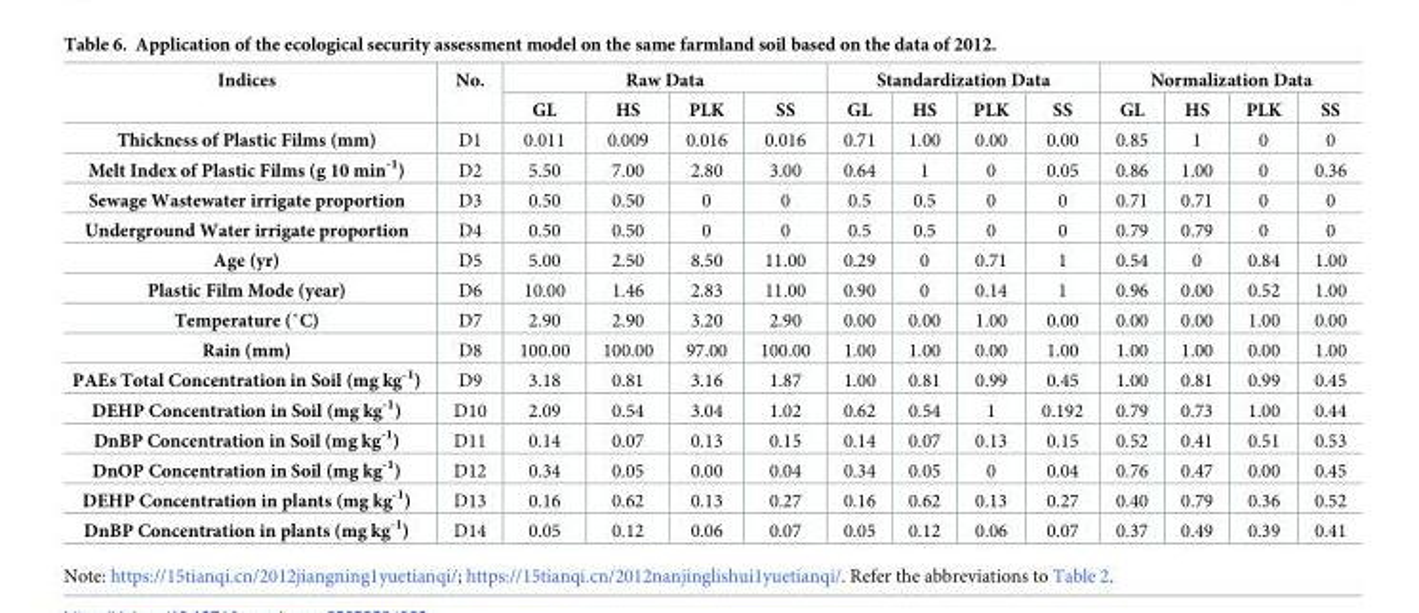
<table><thead><tr><td rowspan="2">Indices</td><td rowspan="2">No.</td><td colspan="4">Raw Data</td><td colspan="4">Standardization Data</td><td colspan="4">Normalization Data</td></tr><tr><td>GL</td><td>HS</td><td>PLK</td><td>SS</td><td>GL</td><td>HS</td><td>PLK</td><td>SS</td><td>GL</td><td>HS</td><td>PLK</td><td>SS</td></tr></thead><tbody><tr><td>Thickness of Plastic Films (mm)</td><td>D1</td><td>0.011</td><td>0.009</td><td>0.016</td><td>0.016</td><td>0.71</td><td>1.00</td><td>0.00</td><td>0.00</td><td>0.85</td><td>1</td><td>0</td><td>0</td></tr><tr><td>Melt Index of Plastic Films (g 10 min<sup>-1</sup>)</td><td>D2</td><td>5.50</td><td>7.00</td><td>2.80</td><td>3.00</td><td>0.64</td><td>1</td><td>0</td><td>0.05</td><td>0.86</td><td>1.00</td><td>0</td><td>0.36</td></tr><tr><td>Sewage Wastewater irrigate proportion</td><td>D3</td><td>0.50</td><td>0.50</td><td>0</td><td>0</td><td>0.5</td><td>0.5</td><td>0</td><td>0</td><td>0.71</td><td>0.71</td><td>0</td><td>0</td></tr><tr><td>Underground Water irrigate proportion</td><td>D4</td><td>0.50</td><td>0.50</td><td>0</td><td>0</td><td>0.5</td><td>0.5</td><td>0</td><td>0</td><td>0.79</td><td>0.79</td><td>0</td><td>0</td></tr><tr><td>Age (yr)</td><td>D5</td><td>5.00</td><td>2.50</td><td>8.50</td><td>11.00</td><td>0.29</td><td>0</td><td>0.71</td><td>1</td><td>0.54</td><td>0</td><td>0.84</td><td>1.00</td></tr><tr><td>Plastic Film Mode (year)</td><td>D6</td><td>10.00</td><td>1.46</td><td>2.83</td><td>11.00</td><td>0.90</td><td>0</td><td>0.14</td><td>1</td><td>0.96</td><td>0.00</td><td>0.52</td><td>1.00</td></tr><tr><td>Temperature (˚C)</td><td>D7</td><td>2.90</td><td>2.90</td><td>3.20</td><td>2.90</td><td>0.00</td><td>0.00</td><td>1.00</td><td>0.00</td><td>0.00</td><td>0.00</td><td>1.00</td><td>0.00</td></tr><tr><td>Rain (mm)</td><td>D8</td><td>100.00</td><td>100.00</td><td>97.00</td><td>100.00</td><td>1.00</td><td>1.00</td><td>0.00</td><td>1.00</td><td>1.00</td><td>1.00</td><td>0.00</td><td>1.00</td></tr><tr><td>PAEs Total Concentration in Soil (mg kg<sup>-1</sup>)</td><td>D9</td><td>3.18</td><td>0.81</td><td>3.16</td><td>1.87</td><td>1.00</td><td>0.81</td><td>0.99</td><td>0.45</td><td>1.00</td><td>0.81</td><td>0.99</td><td>0.45</td></tr><tr><td>DEHP Concentration in Soil (mg kg<sup>-1</sup>)</td><td>D10</td><td>2.09</td><td>0.54</td><td>3.04</td><td>1.02</td><td>0.62</td><td>0.54</td><td>1</td><td>0.192</td><td>0.79</td><td>0.73</td><td>1.00</td><td>0.44</td></tr><tr><td>DnBP Concentration in Soil (mg kg<sup>-1</sup>)</td><td>D11</td><td>0.14</td><td>0.07</td><td>0.13</td><td>0.15</td><td>0.14</td><td>0.07</td><td>0.13</td><td>0.15</td><td>0.52</td><td>0.41</td><td>0.51</td><td>0.53</td></tr><tr><td>DnOP Concentration in Soil (mg kg<sup>-1</sup>)</td><td>D12</td><td>0.34</td><td>0.05</td><td>0.00</td><td>0.04</td><td>0.34</td><td>0.05</td><td>0</td><td>0.04</td><td>0.76</td><td>0.47</td><td>0.00</td><td>0.45</td></tr><tr><td>DEHP Concentration in plants (mg kg<sup>-1</sup>)</td><td>D13</td><td>0.16</td><td>0.62</td><td>0.13</td><td>0.27</td><td>0.16</td><td>0.62</td><td>0.13</td><td>0.27</td><td>0.40</td><td>0.79</td><td>0.36</td><td>0.52</td></tr><tr><td>DnBP Concentration in plants (mg kg<sup>-1</sup>)</td><td>D14</td><td>0.05</td><td>0.12</td><td>0.06</td><td>0.07</td><td>0.05</td><td>0.12</td><td>0.06</td><td>0.07</td><td>0.37</td><td>0.49</td><td>0.39</td><td>0.41</td></tr></tbody></table>